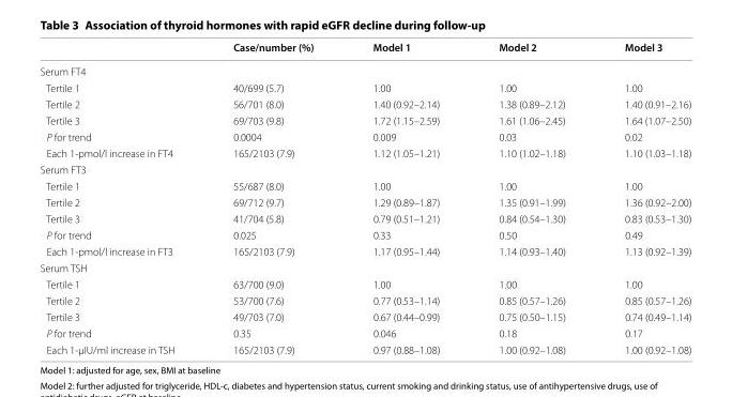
<table><thead><tr><td></td><td>Case/number (%)</td><td>Model 1</td><td>Model 2</td><td>Model 3</td></tr></thead><tbody><tr><td colspan="5">Serum FT4</td></tr><tr><td>Tertile 1</td><td>40/699 (5.7)</td><td>1.00</td><td>1.00</td><td>1.00</td></tr><tr><td>Tertile 2</td><td>56/701 (8.0)</td><td>1.40 (0.92–2.14)</td><td>1.38 (0.89–2.12)</td><td>1.40 (0.91–2.16)</td></tr><tr><td>Tertile 3</td><td>69/703 (9.8)</td><td>1.72 (1.15–2.59)</td><td>1.61 (1.06–2.45)</td><td>1.64 (1.07–2.50)</td></tr><tr><td>P for trend</td><td>0.0004</td><td>0.009</td><td>0.03</td><td>0.02</td></tr><tr><td>Each 1-pmol/l increase in FT4</td><td>165/2103 (7.9)</td><td>1.12 (1.05–1.21)</td><td>1.10 (1.02–1.18)</td><td>1.10 (1.03–1.18)</td></tr><tr><td colspan="5">Serum FT3</td></tr><tr><td>Tertile 1</td><td>55/687 (8.0)</td><td>1.00</td><td>1.00</td><td>1.00</td></tr><tr><td>Tertile 2</td><td>69/712 (9.7)</td><td>1.29 (0.89–1.87)</td><td>1.35 (0.91–1.99)</td><td>1.36 (0.92–2.00)</td></tr><tr><td>Tertile 3</td><td>41/704 (5.8)</td><td>0.79 (0.51–1.21)</td><td>0.84 (0.54–1.30)</td><td>0.83 (0.53–1.30)</td></tr><tr><td>P for trend</td><td>0.025</td><td>0.33</td><td>0.50</td><td>0.49</td></tr><tr><td>Each 1-pmol/l increase in FT3</td><td>165/2103 (7.9)</td><td>1.17 (0.95–1.44)</td><td>1.14 (0.93–1.40)</td><td>1.13 (0.92–1.39)</td></tr><tr><td colspan="5">Serum TSH</td></tr><tr><td>Tertile 1</td><td>63/700 (9.0)</td><td>1.00</td><td>1.00</td><td>1.00</td></tr><tr><td>Tertile 2</td><td>53/700 (7.6)</td><td>0.77 (0.53–1.14)</td><td>0.85 (0.57–1.26)</td><td>0.85 (0.57–1.26)</td></tr><tr><td>Tertile 3</td><td>49/703 (7.0)</td><td>0.67 (0.44–0.99)</td><td>0.75 (0.50–1.15)</td><td>0.74 (0.49–1.14)</td></tr><tr><td>P for trend</td><td>0.35</td><td>0.046</td><td>0.18</td><td>0.17</td></tr><tr><td>Each 1-μIU/ml increase in TSH</td><td>165/2103 (7.9)</td><td>0.97 (0.88–1.08)</td><td>1.00 (0.92–1.08)</td><td>1.00 (0.92–1.08)</td></tr></tbody></table>